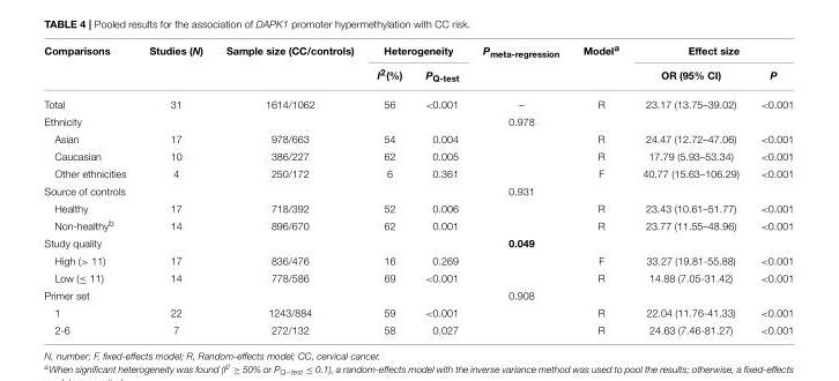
<table><thead><tr><td rowspan="2">Comparisons</td><td rowspan="2">Studies (N)</td><td rowspan="2">Sample size (CC/controls)</td><td colspan="2">Heterogeneity</td><td rowspan="2">P<sub>meta-regression</sub></td><td rowspan="2">Model<sup>a</sup></td><td colspan="2">Effect size</td></tr><tr><td>I<sup>2</sup>(%)</td><td>P<sub>Q-test</sub></td><td>OR (95% CI)</td><td>P</td></tr></thead><tbody><tr><td>Total</td><td>31</td><td>1614/1062</td><td>56</td><td>&lt;0.001</td><td>–</td><td>R</td><td>23.17 (13.75–39.02)</td><td>&lt;0.001</td></tr><tr><td>Ethnicity</td><td></td><td></td><td></td><td></td><td>0.978</td><td></td><td></td><td></td></tr><tr><td>Asian</td><td>17</td><td>978/663</td><td>54</td><td>0.004</td><td></td><td>R</td><td>24.47 (12.72–47.06)</td><td>&lt;0.001</td></tr><tr><td>Caucasian</td><td>10</td><td>386/227</td><td>62</td><td>0.005</td><td></td><td>R</td><td>17.79 (5.93–53.34)</td><td>&lt;0.001</td></tr><tr><td>Other ethnicities</td><td>4</td><td>250/172</td><td>6</td><td>0.361</td><td></td><td>F</td><td>40.77 (15.63–106.29)</td><td>&lt;0.001</td></tr><tr><td>Source of controls</td><td></td><td></td><td></td><td></td><td>0.931</td><td></td><td></td><td></td></tr><tr><td>Healthy</td><td>17</td><td>718/392</td><td>52</td><td>0.006</td><td></td><td>R</td><td>23.43 (10.61–51.77)</td><td>&lt;0.001</td></tr><tr><td>Non-healthy<sup>b</sup></td><td>14</td><td>896/670</td><td>62</td><td>0.001</td><td></td><td>R</td><td>23.77 (11.55–48.96)</td><td>&lt;0.001</td></tr><tr><td>Study quality</td><td></td><td></td><td></td><td></td><td>0.049</td><td></td><td></td><td></td></tr><tr><td>High (&gt; 11)</td><td>17</td><td>836/476</td><td>16</td><td>0.269</td><td></td><td>F</td><td>33.27 (19.81-55.88)</td><td>&lt;0.001</td></tr><tr><td>Low (≤ 11)</td><td>14</td><td>778/586</td><td>69</td><td>&lt;0.001</td><td></td><td>R</td><td>14.88 (7.05-31.42)</td><td>&lt;0.001</td></tr><tr><td>Primer set</td><td></td><td></td><td></td><td></td><td>0.908</td><td></td><td></td><td></td></tr><tr><td>1</td><td>22</td><td>1243/884</td><td>59</td><td>&lt;0.001</td><td></td><td>R</td><td>22.04 (11.76-41.33)</td><td>&lt;0.001</td></tr><tr><td>2-6</td><td>7</td><td>272/132</td><td>58</td><td>0.027</td><td></td><td>R</td><td>24.63 (7.46-81.27)</td><td>&lt;0.001</td></tr></tbody></table>